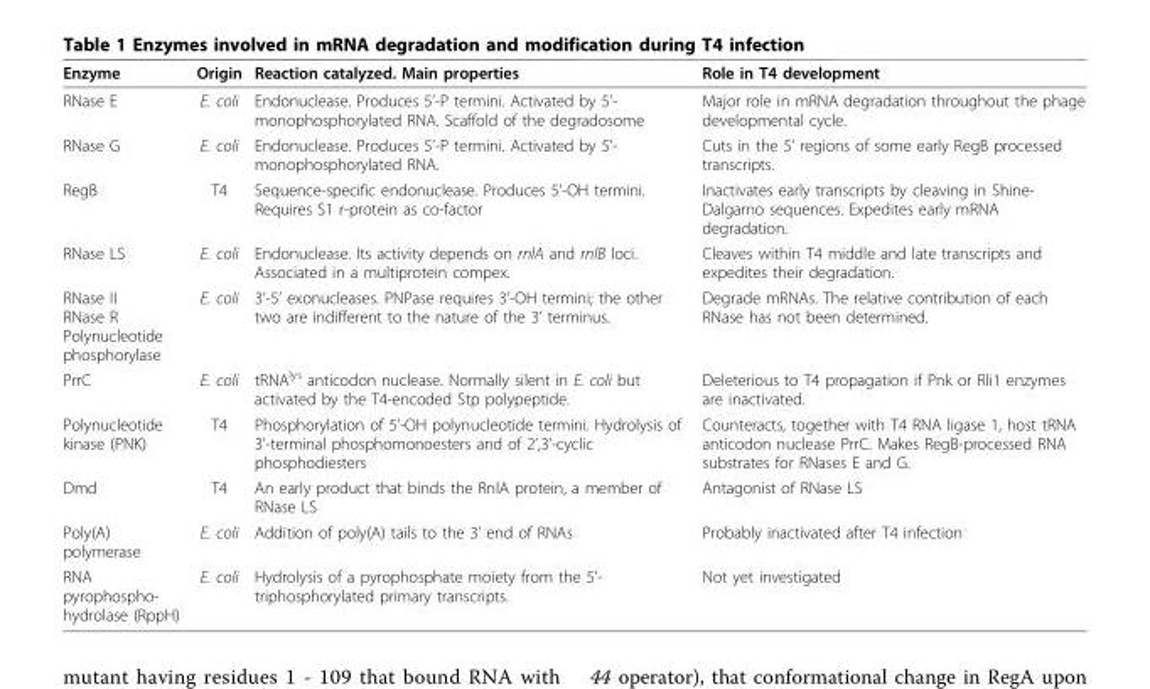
<table><thead><tr><td>Enzyme</td><td>Origin</td><td>Reaction catalyzed. Main properties</td><td>Role in T4 development</td></tr></thead><tbody><tr><td>RNase E</td><td>E. coli</td><td>Endonuclease. Produces 5’-P termini. Activated by 5’- monophosphorylated RNA. Scaffold of the degradosome</td><td>Major role in mRNA degradation throughout the phage developmental cycle.</td></tr><tr><td>RNase G</td><td>E. coli</td><td>Endonuclease. Produces 5’-P termini. Activated by 5’- monophosphorylated RNA.</td><td>Cuts in the 5’ regions of some early RegB processed transcripts.</td></tr><tr><td>RegB</td><td>T4</td><td>Sequence-specific endonuclease. Produces 5’-OH termini. Requires S1 r-protein as co-factor</td><td>Inactivates early transcripts by cleaving in Shine- Dalgarno sequences. Expedites early mRNA degradation.</td></tr><tr><td>RNase LS</td><td>E. coli</td><td>Endonuclease. Its activity depends on rnlA and rnlB loci. Associated in a multiprotein compex.</td><td>Cleaves within T4 middle and late transcripts and expedites their degradation.</td></tr><tr><td>RNase II RNase R Polynucleotide phosphorylase</td><td>E. coli</td><td>3’-5’ exonucleases. PNPase requires 3’-OH termini; the other two are indifferent to the nature of the 3’ terminus.</td><td>Degrade mRNAs. The relative contribution of each RNase has not been determined.</td></tr><tr><td>PrrC</td><td>E. coli</td><td>tRNA<sup>lys</sup> anticodon nuclease. Normally silent in E. coli but activated by the T4-encoded Stp polypeptide.</td><td>Deleterious to T4 propagation if Pnk or Rli1 enzymes are inactivated.</td></tr><tr><td>Polynucleotide kinase (PNK)</td><td>T4</td><td>Phosphorylation of 5’-OH polynucleotide termini. Hydrolysis of 3’-terminal phosphomonoesters and of 2’,3’-cyclic phosphodiesters</td><td>Counteracts, together with T4 RNA ligase 1, host tRNA anticodon nuclease PrrC. Makes RegB-processed RNA substrates for RNases E and G.</td></tr><tr><td>Dmd</td><td>T4</td><td>An early product that binds the RnlA protein, a member of RNase LS</td><td>Antagonist of RNase LS</td></tr><tr><td>Poly(A) polymerase</td><td>E. coli</td><td>Addition of poly(A) tails to the 3’ end of RNAs</td><td>Probably inactivated after T4 infection</td></tr><tr><td>RNA pyrophospho- hydrolase (RppH)</td><td>E. coli</td><td>Hydrolysis of a pyrophosphate moiety from the 5’- triphosphorylated primary transcripts.</td><td>Not yet investigated</td></tr></tbody></table>